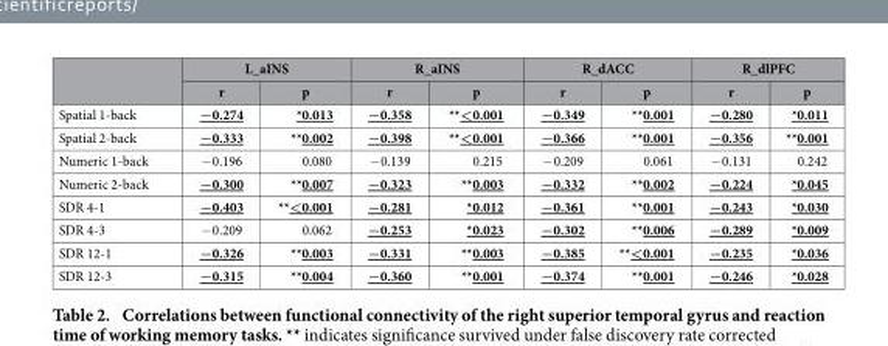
<table><thead><tr><td rowspan="2"></td><td colspan="2">L_aINS</td><td colspan="2">R_aINS</td><td colspan="2">R_dACC</td><td colspan="2">R_dlPFC</td></tr><tr><td>r</td><td>p</td><td>r</td><td>p</td><td>r</td><td>p</td><td>r</td><td>p</td></tr></thead><tbody><tr><td>Spatial 1-back</td><td>−0.274</td><td>*0.013</td><td>−0.358</td><td>**&lt;0.001</td><td>−0.349</td><td>**0.001</td><td>−0.280</td><td>*0.011</td></tr><tr><td>Spatial 2-back</td><td>−0.333</td><td>**0.002</td><td>−0.398</td><td>**&lt;0.001</td><td>−0.366</td><td>**0.001</td><td>−0.356</td><td>**0.001</td></tr><tr><td>Numeric 1-back</td><td>− 0.196</td><td>0.080</td><td>− 0.139</td><td>0.215</td><td>− 0.209</td><td>0.061</td><td>− 0.131</td><td>0.242</td></tr><tr><td>Numeric 2-back</td><td>−0.300</td><td>**0.007</td><td>−0.323</td><td>**0.003</td><td>−0.332</td><td>**0.002</td><td>−0.224</td><td>*0.045</td></tr><tr><td>SDR 4-1</td><td>−0.403</td><td>**&lt;0.001</td><td>−0.281</td><td>*0.012</td><td>−0.361</td><td>**0.001</td><td>−0.243</td><td>*0.030</td></tr><tr><td>SDR 4-3</td><td>− 0.209</td><td>0.062</td><td>−0.253</td><td>*0.023</td><td>−0.302</td><td>**0.006</td><td>−0.289</td><td>*0.009</td></tr><tr><td>SDR 12-1</td><td>−0.326</td><td>**0.003</td><td>−0.331</td><td>**0.003</td><td>−0.385</td><td>**&lt;0.001</td><td>−0.235</td><td>*0.036</td></tr><tr><td>SDR 12-3</td><td>−0.315</td><td>**0.004</td><td>−0.360</td><td>**0.001</td><td>−0.374</td><td>**0.001</td><td>−0.246</td><td>*0.028</td></tr></tbody></table>